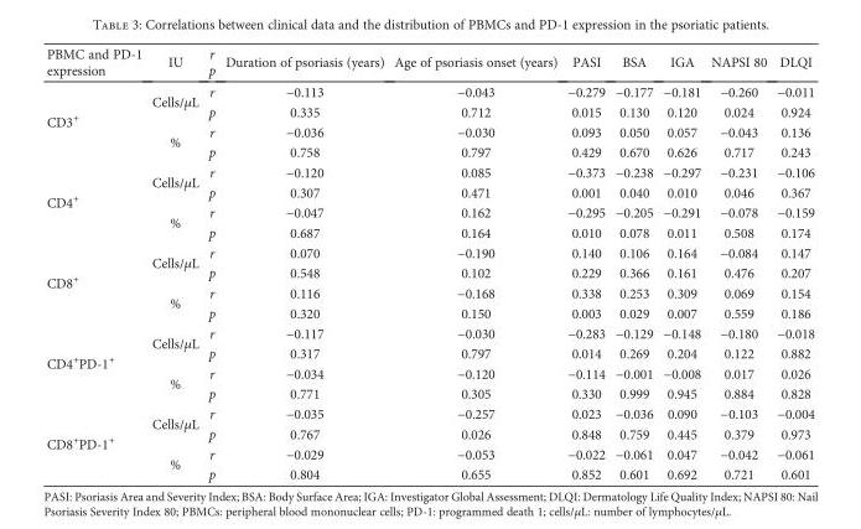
<table><thead><tr><td rowspan="2">PBMC and PD-1 expression</td><td rowspan="2">IU</td><td rowspan="2">r p</td><td rowspan="2">Duration of psoriasis (years)</td><td rowspan="2">Age of psoriasis onset (years)</td><td rowspan="2">PASI</td><td rowspan="2">BSA</td><td rowspan="2">IGA</td><td rowspan="2">NAPSI 80</td><td rowspan="2">DLQI</td></tr><tr></tr></thead><tbody><tr><td rowspan="4">CD3<sup>+</sup></td><td rowspan="2">Cells/μL</td><td>r</td><td>−0.113</td><td>−0.043</td><td>−0.279</td><td>−0.177</td><td>−0.181</td><td>−0.260</td><td>−0.011</td></tr><tr><td>p</td><td>0.335</td><td>0.712</td><td>0.015</td><td>0.130</td><td>0.120</td><td>0.024</td><td>0.924</td></tr><tr><td rowspan="2">%</td><td>r</td><td>−0.036</td><td>−0.030</td><td>0.093</td><td>0.050</td><td>0.057</td><td>−0.043</td><td>0.136</td></tr><tr><td>p</td><td>0.758</td><td>0.797</td><td>0.429</td><td>0.670</td><td>0.626</td><td>0.717</td><td>0.243</td></tr><tr><td rowspan="4">CD4<sup>+</sup></td><td rowspan="2">Cells/μL</td><td>r</td><td>−0.120</td><td>0.085</td><td>−0.373</td><td>−0.238</td><td>−0.297</td><td>−0.231</td><td>−0.106</td></tr><tr><td>p</td><td>0.307</td><td>0.471</td><td>0.001</td><td>0.040</td><td>0.010</td><td>0.046</td><td>0.367</td></tr><tr><td rowspan="2">%</td><td>r</td><td>−0.047</td><td>0.162</td><td>−0.295</td><td>−0.205</td><td>−0.291</td><td>−0.078</td><td>−0.159</td></tr><tr><td>p</td><td>0.687</td><td>0.164</td><td>0.010</td><td>0.078</td><td>0.011</td><td>0.508</td><td>0.174</td></tr><tr><td rowspan="4">CD8<sup>+</sup></td><td rowspan="2">Cells/μL</td><td>r</td><td>0.070</td><td>−0.190</td><td>0.140</td><td>0.106</td><td>0.164</td><td>−0.084</td><td>0.147</td></tr><tr><td>p</td><td>0.548</td><td>0.102</td><td>0.229</td><td>0.366</td><td>0.161</td><td>0.476</td><td>0.207</td></tr><tr><td rowspan="2">%</td><td>r</td><td>0.116</td><td>−0.168</td><td>0.338</td><td>0.253</td><td>0.309</td><td>0.069</td><td>0.154</td></tr><tr><td>p</td><td>0.320</td><td>0.150</td><td>0.003</td><td>0.029</td><td>0.007</td><td>0.559</td><td>0.186</td></tr><tr><td rowspan="4">CD4<sup>+</sup>PD-1<sup>+</sup></td><td rowspan="2">Cells/μL</td><td>r</td><td>−0.117</td><td>−0.030</td><td>−0.283</td><td>−0.129</td><td>−0.148</td><td>−0.180</td><td>−0.018</td></tr><tr><td>p</td><td>0.317</td><td>0.797</td><td>0.014</td><td>0.269</td><td>0.204</td><td>0.122</td><td>0.882</td></tr><tr><td rowspan="2">%</td><td>r</td><td>−0.034</td><td>−0.120</td><td>−0.114</td><td>−0.001</td><td>−0.008</td><td>0.017</td><td>0.026</td></tr><tr><td>p</td><td>0.771</td><td>0.305</td><td>0.330</td><td>0.999</td><td>0.945</td><td>0.884</td><td>0.828</td></tr><tr><td rowspan="4">CD8<sup>+</sup>PD-1<sup>+</sup></td><td rowspan="2">Cells/μL</td><td>r</td><td>−0.035</td><td>−0.257</td><td>0.023</td><td>−0.036</td><td>0.090</td><td>−0.103</td><td>−0.004</td></tr><tr><td>p</td><td>0.767</td><td>0.026</td><td>0.848</td><td>0.759</td><td>0.445</td><td>0.379</td><td>0.973</td></tr><tr><td rowspan="2">%</td><td>r</td><td>−0.029</td><td>−0.053</td><td>−0.022</td><td>−0.061</td><td>0.047</td><td>−0.042</td><td>−0.061</td></tr><tr><td>p</td><td>0.804</td><td>0.655</td><td>0.852</td><td>0.601</td><td>0.692</td><td>0.721</td><td>0.601</td></tr></tbody></table>